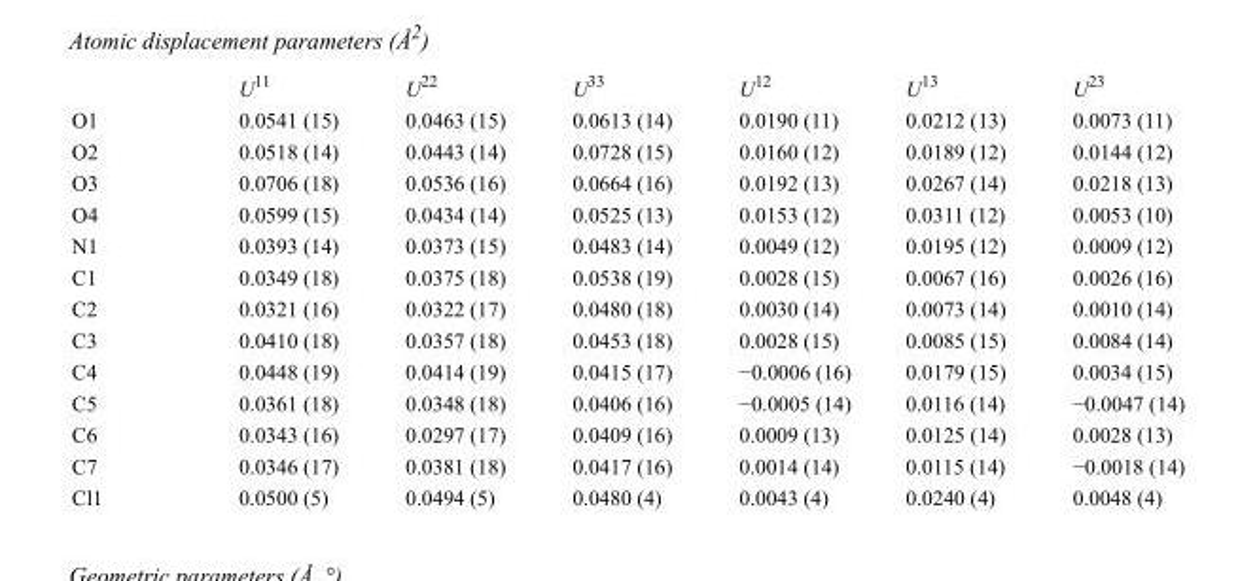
<table><thead><tr><td></td><td>U<sup>11</sup></td><td>U<sup>22</sup></td><td>U<sup>33</sup></td><td>U<sup>12</sup></td><td>U<sup>13</sup></td><td>U<sup>23</sup></td></tr></thead><tbody><tr><td>O1</td><td>0.0541 (15)</td><td>0.0463 (15)</td><td>0.0613 (14)</td><td>0.0190 (11)</td><td>0.0212 (13)</td><td>0.0073 (11)</td></tr><tr><td>O2</td><td>0.0518 (14)</td><td>0.0443 (14)</td><td>0.0728 (15)</td><td>0.0160 (12)</td><td>0.0189 (12)</td><td>0.0144 (12)</td></tr><tr><td>O3</td><td>0.0706 (18)</td><td>0.0536 (16)</td><td>0.0664 (16)</td><td>0.0192 (13)</td><td>0.0267 (14)</td><td>0.0218 (13)</td></tr><tr><td>O4</td><td>0.0599 (15)</td><td>0.0434 (14)</td><td>0.0525 (13)</td><td>0.0153 (12)</td><td>0.0311 (12)</td><td>0.0053 (10)</td></tr><tr><td>N1</td><td>0.0393 (14)</td><td>0.0373 (15)</td><td>0.0483 (14)</td><td>0.0049 (12)</td><td>0.0195 (12)</td><td>0.0009 (12)</td></tr><tr><td>C1</td><td>0.0349 (18)</td><td>0.0375 (18)</td><td>0.0538 (19)</td><td>0.0028 (15)</td><td>0.0067 (16)</td><td>0.0026 (16)</td></tr><tr><td>C2</td><td>0.0321 (16)</td><td>0.0322 (17)</td><td>0.0480 (18)</td><td>0.0030 (14)</td><td>0.0073 (14)</td><td>0.0010 (14)</td></tr><tr><td>C3</td><td>0.0410 (18)</td><td>0.0357 (18)</td><td>0.0453 (18)</td><td>0.0028 (15)</td><td>0.0085 (15)</td><td>0.0084 (14)</td></tr><tr><td>C4</td><td>0.0448 (19)</td><td>0.0414 (19)</td><td>0.0415 (17)</td><td>−0.0006 (16)</td><td>0.0179 (15)</td><td>0.0034 (15)</td></tr><tr><td>C5</td><td>0.0361 (18)</td><td>0.0348 (18)</td><td>0.0406 (16)</td><td>−0.0005 (14)</td><td>0.0116 (14)</td><td>−0.0047 (14)</td></tr><tr><td>C6</td><td>0.0343 (16)</td><td>0.0297 (17)</td><td>0.0409 (16)</td><td>0.0009 (13)</td><td>0.0125 (14)</td><td>0.0028 (13)</td></tr><tr><td>C7</td><td>0.0346 (17)</td><td>0.0381 (18)</td><td>0.0417 (16)</td><td>0.0014 (14)</td><td>0.0115 (14)</td><td>−0.0018 (14)</td></tr><tr><td>Cl1</td><td>0.0500 (5)</td><td>0.0494 (5)</td><td>0.0480 (4)</td><td>0.0043 (4)</td><td>0.0240 (4)</td><td>0.0048 (4)</td></tr></tbody></table>